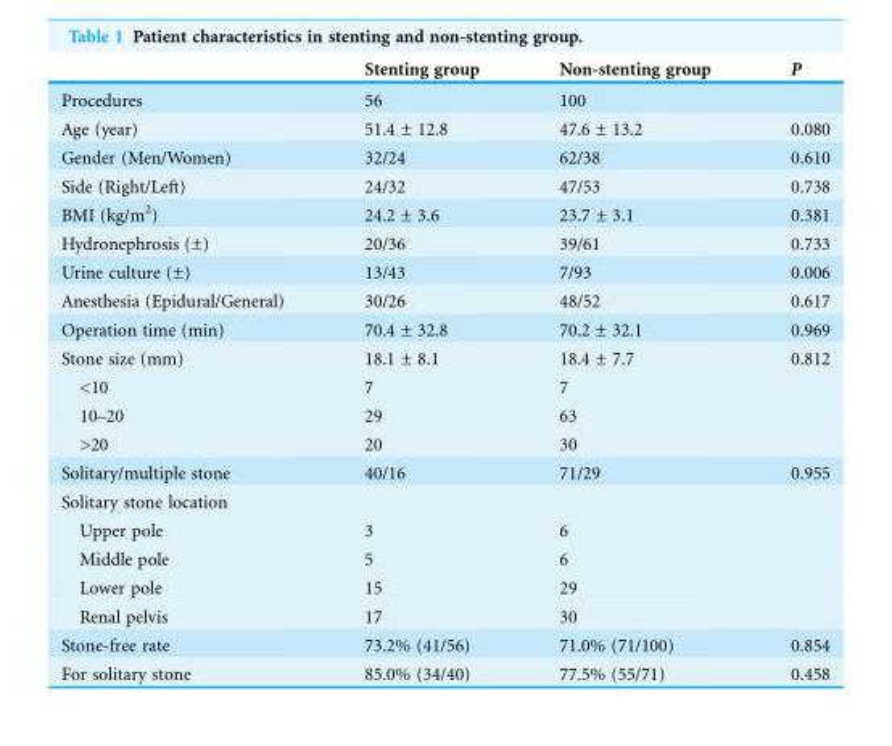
<table><thead><tr><td></td><td>Stenting group</td><td>Non-stenting group</td><td>P</td></tr></thead><tbody><tr><td>Procedures</td><td>56</td><td>100</td><td></td></tr><tr><td>Age (year)</td><td>51.4 ± 12.8</td><td>47.6 ± 13.2</td><td>0.080</td></tr><tr><td>Gender (Men/Women)</td><td>32/24</td><td>62/38</td><td>0.610</td></tr><tr><td>Side (Right/Left)</td><td>24/32</td><td>47/53</td><td>0.738</td></tr><tr><td>BMI (kg/m<sup>2</sup>)</td><td>24.2 ± 3.6</td><td>23.7 ± 3.1</td><td>0.381</td></tr><tr><td>Hydronephrosis (±)</td><td>20/36</td><td>39/61</td><td>0.733</td></tr><tr><td>Urine culture (±)</td><td>13/43</td><td>7/93</td><td>0.006</td></tr><tr><td>Anesthesia (Epidural/General)</td><td>30/26</td><td>48/52</td><td>0.617</td></tr><tr><td>Operation time (min)</td><td>70.4 ± 32.8</td><td>70.2 ± 32.1</td><td>0.969</td></tr><tr><td>Stone size (mm)</td><td>18.1 ± 8.1</td><td>18.4 ± 7.7</td><td>0.812</td></tr><tr><td>&lt;10</td><td>7</td><td>7</td><td></td></tr><tr><td>10–20</td><td>29</td><td>63</td><td></td></tr><tr><td>&gt;20</td><td>20</td><td>30</td><td></td></tr><tr><td>Solitary/multiple stone</td><td>40/16</td><td>71/29</td><td>0.955</td></tr><tr><td colspan="4">Solitary stone location</td></tr><tr><td>Upper pole</td><td>3</td><td>6</td><td></td></tr><tr><td>Middle pole</td><td>5</td><td>6</td><td></td></tr><tr><td>Lower pole</td><td>15</td><td>29</td><td></td></tr><tr><td>Renal pelvis</td><td>17</td><td>30</td><td></td></tr><tr><td>Stone-free rate</td><td>73.2% (41/56)</td><td>71.0% (71/100)</td><td>0.854</td></tr><tr><td>For solitary stone</td><td>85.0% (34/40)</td><td>77.5% (55/71)</td><td>0.458</td></tr></tbody></table>